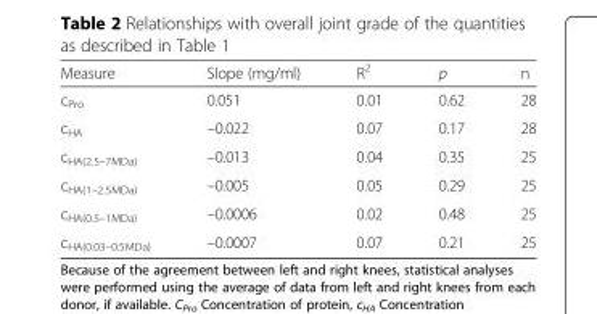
<table><thead><tr><td>Measure</td><td>Slope (mg/ml)</td><td>R<sup>2</sup></td><td>p</td><td>n</td></tr></thead><tbody><tr><td>c<sub>Pro</sub></td><td>0.051</td><td>0.01</td><td>0.62</td><td>28</td></tr><tr><td>c<sub>HA</sub></td><td>–0.022</td><td>0.07</td><td>0.17</td><td>28</td></tr><tr><td>c<sub>HA(2.5–7MDa)</sub></td><td>–0.013</td><td>0.04</td><td>0.35</td><td>25</td></tr><tr><td>c<sub>HA(1–2.5MDa)</sub></td><td>–0.005</td><td>0.05</td><td>0.29</td><td>25</td></tr><tr><td>c<sub>HA(0.5–1MDa)</sub></td><td>–0.0006</td><td>0.02</td><td>0.48</td><td>25</td></tr><tr><td>c<sub>HA(0.03–0.5MDa)</sub></td><td>–0.0007</td><td>0.07</td><td>0.21</td><td>25</td></tr></tbody></table>